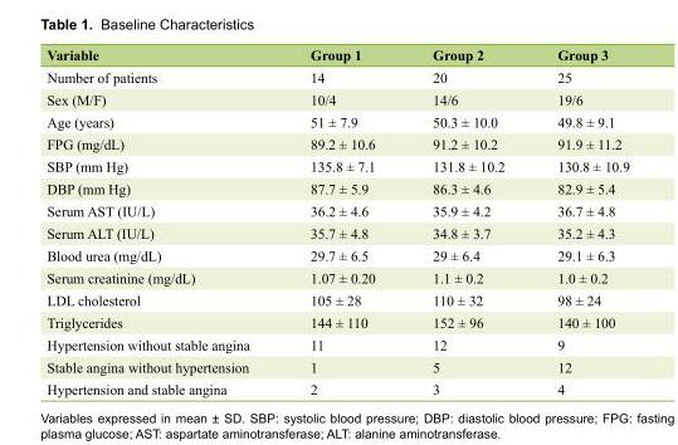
<table><thead><tr><td>Variable</td><td>Group 1</td><td>Group 2</td><td>Group 3</td></tr></thead><tbody><tr><td>Number of patients</td><td>14</td><td>20</td><td>25</td></tr><tr><td>Sex (M/F)</td><td>10/4</td><td>14/6</td><td>19/6</td></tr><tr><td>Age (years)</td><td>51 ± 7.9</td><td>50.3 ± 10.0</td><td>49.8 ± 9.1</td></tr><tr><td>FPG (mg/dL)</td><td>89.2 ± 10.6</td><td>91.2 ± 10.2</td><td>91.9 ± 11.2</td></tr><tr><td>SBP (mm Hg)</td><td>135.8 ± 7.1</td><td>131.8 ± 10.2</td><td>130.8 ± 10.9</td></tr><tr><td>DBP (mm Hg)</td><td>87.7 ± 5.9</td><td>86.3 ± 4.6</td><td>82.9 ± 5.4</td></tr><tr><td>Serum AST (IU/L)</td><td>36.2 ± 4.6</td><td>35.9 ± 4.2</td><td>36.7 ± 4.8</td></tr><tr><td>Serum ALT (IU/L)</td><td>35.7 ± 4.8</td><td>34.8 ± 3.7</td><td>35.2 ± 4.3</td></tr><tr><td>Blood urea (mg/dL)</td><td>29.7 ± 6.5</td><td>29 ± 6.4</td><td>29.1 ± 6.3</td></tr><tr><td>Serum creatinine (mg/dL)</td><td>1.07 ± 0.20</td><td>1.1 ± 0.2</td><td>1.0 ± 0.2</td></tr><tr><td>LDL cholesterol</td><td>105 ± 28</td><td>110 ± 32</td><td>98 ± 24</td></tr><tr><td>Triglycerides</td><td>144 ± 110</td><td>152 ± 96</td><td>140 ± 100</td></tr><tr><td>Hypertension without stable angina</td><td>11</td><td>12</td><td>9</td></tr><tr><td>Stable angina without hypertension</td><td>1</td><td>5</td><td>12</td></tr><tr><td>Hypertension and stable angina</td><td>2</td><td>3</td><td>4</td></tr></tbody></table>